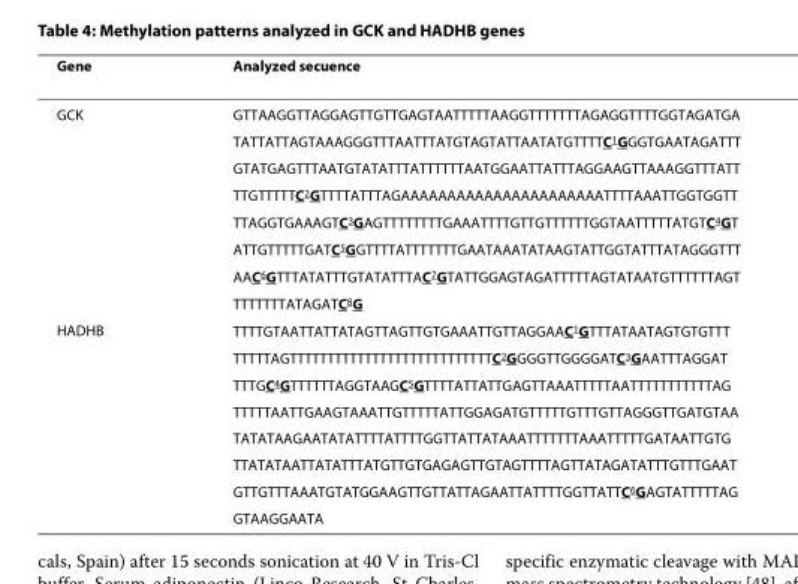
<table><thead><tr><td>Gene</td><td>Analyzed secuence</td></tr></thead><tbody><tr><td rowspan="8">GCK</td><td>GTTAAGGTTAGGAGTTGTTGAGTAATTTTTAAGGTTTTTTTAGAGGTTTTGGTAGATGA</td></tr><tr><td>TATTATTAGTAAAGGGTTTAATTTATGTAGTATTAATATGTTTTC<sup>1</sup>GGGTGAATAGATTT</td></tr><tr><td>GTATGAGTTTAATGTATATTTATTTTTTAATGGAATTATTTAGGAAGTTAAAGGTTTATT</td></tr><tr><td>TTGTTTTTC<sup>2</sup>GTTTTATTTAGAAAAAAAAAAAAAAAAAAAAAATTTTAAATTGGTGGTT</td></tr><tr><td>TTAGGTGAAAGTC<sup>3</sup>GAGTTTTTTTTGAAATTTTGTTGTTTTTTGGTAATTTTTATGTC<sup>4</sup>GT</td></tr><tr><td>ATTGTTTTTGATC<sup>5</sup>GGTTTTATTTTTTTGAATAAATATAAGTATTGGTATTTATAGGGTTT</td></tr><tr><td>AAC<sup>6</sup>GTTTATATTTGTATATTTAC<sup>7</sup>GTATTGGAGTAGATTTTTAGTATAATGTTTTTTAGT</td></tr><tr><td>TTTTTTTATAGATC<sup>8</sup>G</td></tr><tr><td rowspan="8">HADHB</td><td>TTTTGTAATTATTATAGTTAGTTGTGAAATTGTTAGGAAC<sup>1</sup>GTTTATAATAGTGTGTTT</td></tr><tr><td>TTTTTAGTTTTTTTTTTTTTTTTTTTTTTTTTTTC<sup>2</sup>GGGGTTGGGGATC<sup>3</sup>GAATTTAGGAT</td></tr><tr><td>TTTGC<sup>4</sup>GTTTTTTAGGTAAGC<sup>5</sup>GTTTTATTATTGAGTTAAATTTTTAATTTTTTTTTTTAG</td></tr><tr><td>TTTTTAATTGAAGTAAATTGTTTTTATTGGAGATGTTTTTGTTTGTTAGGGTTGATGTAA</td></tr><tr><td>TATATAAGAATATATTTTATTTTGGTTATTATAAATTTTTTTAAATTTTTGATAATTGTG</td></tr><tr><td>TTATATAATTATATTTATGTTGTGAGAGTTGTAGTTTTAGTTATAGATATTTGTTTGAAT</td></tr><tr><td>GTTGTTTAAATGTATGGAAGTTGTTATTAGAATTATTTTGGTTATTC<sup>6</sup>GAGTATTTTTAG</td></tr><tr><td>GTAAGGAATA</td></tr></tbody></table>